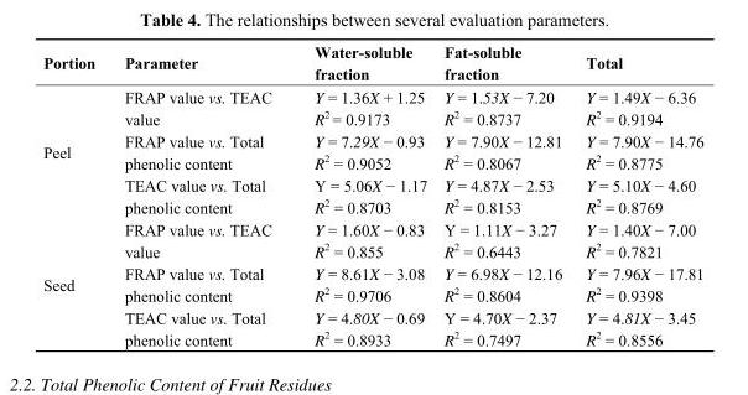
<table><thead><tr><td>Portion</td><td>Parameter</td><td>Water-soluble fraction</td><td>Fat-soluble fraction</td><td>Total</td></tr></thead><tbody><tr><td rowspan="3">Peel</td><td>FRAP value vs. TEAC value</td><td>Y = 1.36X + 1.25 R<sub>2</sub> = 0.9173</td><td>Y = 1.53X − 7.20 R<sub>2</sub> = 0.8737</td><td>Y = 1.49X − 6.36 R<sub>2</sub> = 0.9194</td></tr><tr><td>FRAP value vs. Total phenolic content</td><td>Y = 7.29X − 0.93 R<sub>2</sub> = 0.9052</td><td>Y = 7.90X − 12.81 R<sub>2</sub> = 0.8067</td><td>Y = 7.90X − 14.76 R<sub>2</sub> = 0.8775</td></tr><tr><td>TEAC value vs. Total phenolic content</td><td>Y = 5.06X − 1.17 R<sub>2</sub> = 0.8703</td><td>Y = 4.87X − 2.53 R<sub>2</sub> = 0.8153</td><td>Y = 5.10X − 4.60 R<sub>2</sub> = 0.8769</td></tr><tr><td rowspan="3">Seed</td><td>FRAP value vs. TEAC value</td><td>Y = 1.60X − 0.83 R<sub>2</sub> = 0.855</td><td>Y = 1.11X − 3.27 R<sub>2</sub> = 0.6443</td><td>Y = 1.40X − 7.00 R<sub>2</sub> = 0.7821</td></tr><tr><td>FRAP value vs. Total phenolic content</td><td>Y = 8.61X − 3.08 R<sub>2</sub> = 0.9706</td><td>Y = 6.98X − 12.16 R<sub>2</sub> = 0.8604</td><td>Y = 7.96X − 17.81 R<sub>2</sub> = 0.9398</td></tr><tr><td>TEAC value vs. Total phenolic content</td><td>Y = 4.80X − 0.69 R<sub>2</sub> = 0.8933</td><td>Y = 4.70X − 2.37 R<sub>2</sub> = 0.7497</td><td>Y = 4.81X − 3.45 R<sub>2</sub> = 0.8556</td></tr></tbody></table>